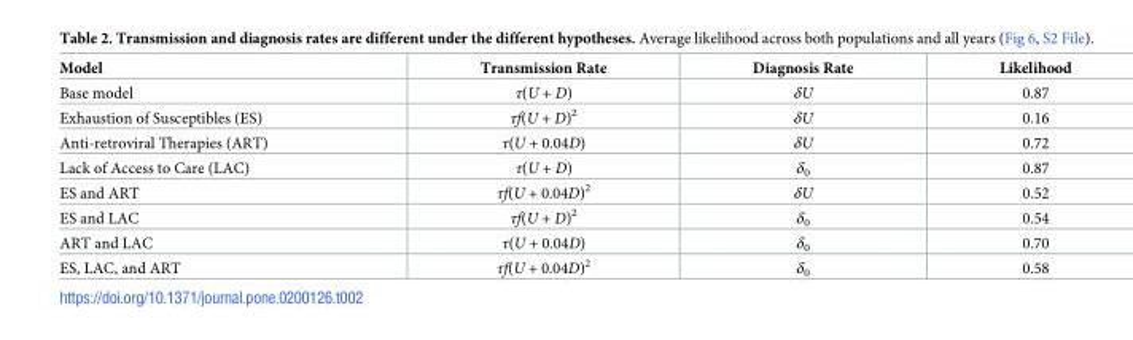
<table><thead><tr><td>Model</td><td>Transmission Rate</td><td>Diagnosis Rate</td><td>Likelihood</td></tr></thead><tbody><tr><td>Base model</td><td>τ(U + D)</td><td>δU</td><td>0.87</td></tr><tr><td>Exhaustion of Susceptibles (ES)</td><td>τf(U + D)<sup>2</sup></td><td>δU</td><td>0.16</td></tr><tr><td>Anti-retroviral Therapies (ART)</td><td>τ(U + 0.04D)</td><td>δU</td><td>0.72</td></tr><tr><td>Lack of Access to Care (LAC)</td><td>τ(U + D)</td><td>δ<sub>0</sub></td><td>0.87</td></tr><tr><td>ES and ART</td><td>τf(U + 0.04D)<sup>2</sup></td><td>δU</td><td>0.52</td></tr><tr><td>ES and LAC</td><td>τf(U + D)<sup>2</sup></td><td>δ<sub>0</sub></td><td>0.54</td></tr><tr><td>ART and LAC</td><td>τ(U + 0.04D)</td><td>δ<sub>0</sub></td><td>0.70</td></tr><tr><td>ES, LAC, and ART</td><td>τf(U + 0.04D)<sup>2</sup></td><td>δ<sub>0</sub></td><td>0.58</td></tr></tbody></table>